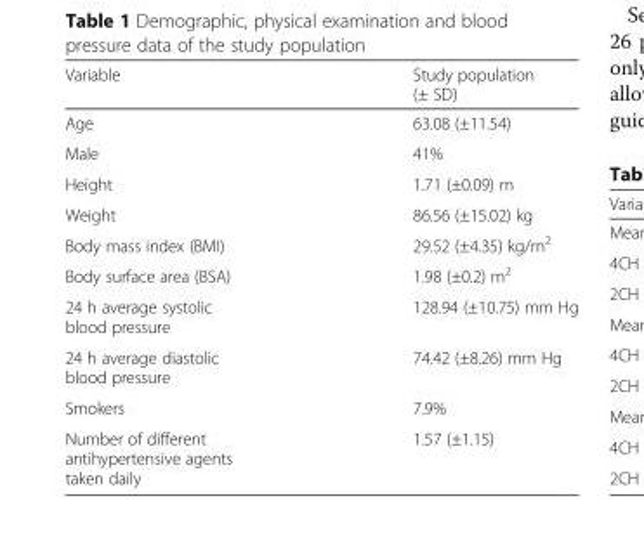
<table><thead><tr><td>Variable</td><td>Study population (± SD)</td></tr></thead><tbody><tr><td>Age</td><td>63.08 (±11.54)</td></tr><tr><td>Male</td><td>41%</td></tr><tr><td>Height</td><td>1.71 (±0.09) m</td></tr><tr><td>Weight</td><td>86.56 (±15.02) kg</td></tr><tr><td>Body mass index (BMI)</td><td>29.52 (±4.35) kg/m<sup>2</sup></td></tr><tr><td>Body surface area (BSA)</td><td>1.98 (±0.2) m<sup>2</sup></td></tr><tr><td>24 h average systolic blood pressure</td><td>128.94 (±10.75) mm Hg</td></tr><tr><td>24 h average diastolic blood pressure</td><td>74.42 (±8.26) mm Hg</td></tr><tr><td>Smokers</td><td>7.9%</td></tr><tr><td>Number of different antihypertensive agents taken daily</td><td>1.57 (±1.15)</td></tr></tbody></table>